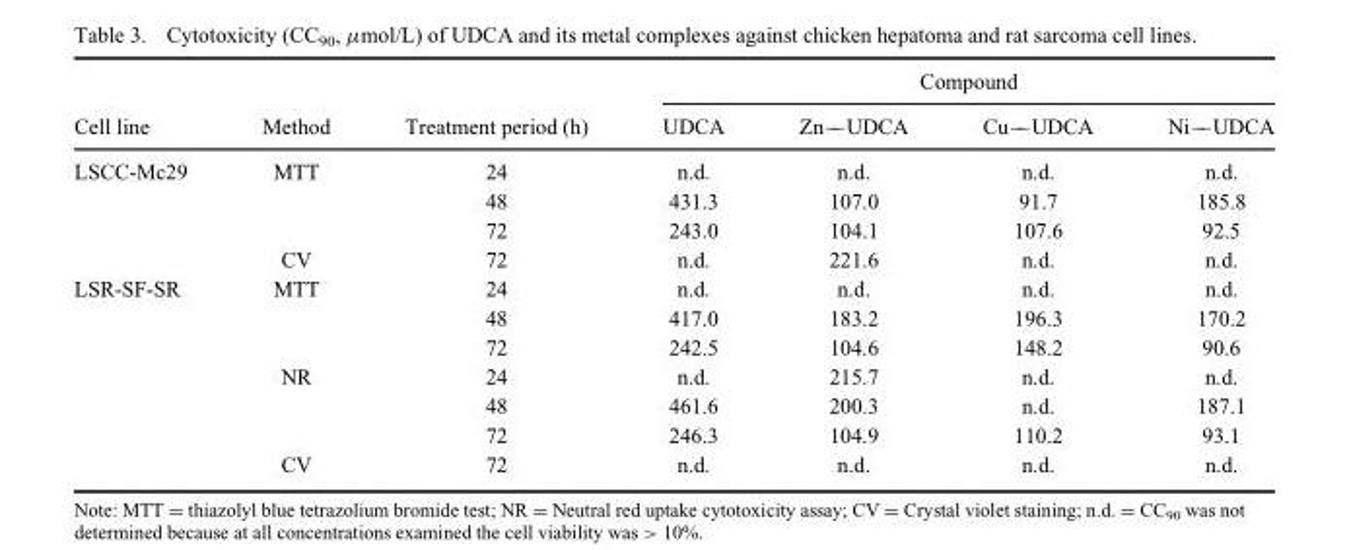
<table><thead><tr><td rowspan="2">Cell line</td><td rowspan="2">Method</td><td rowspan="2">Treatment period (h)</td><td colspan="4">Compound</td></tr><tr><td>UDCA</td><td>Zn��UDCA</td><td>Cu��UDCA</td><td>Ni��UDCA</td></tr></thead><tbody><tr><td rowspan="4">LSCC-Mc29</td><td>MTT</td><td>24</td><td>n.d.</td><td>n.d.</td><td>n.d.</td><td>n.d.</td></tr><tr><td></td><td>48</td><td>431.3</td><td>107.0</td><td>91.7</td><td>185.8</td></tr><tr><td></td><td>72</td><td>243.0</td><td>104.1</td><td>107.6</td><td>92.5</td></tr><tr><td>CV</td><td>72</td><td>n.d.</td><td>221.6</td><td>n.d.</td><td>n.d.</td></tr><tr><td rowspan="7">LSR-SF-SR</td><td>MTT</td><td>24</td><td>n.d.</td><td>n.d.</td><td>n.d.</td><td>n.d.</td></tr><tr><td></td><td>48</td><td>417.0</td><td>183.2</td><td>196.3</td><td>170.2</td></tr><tr><td></td><td>72</td><td>242.5</td><td>104.6</td><td>148.2</td><td>90.6</td></tr><tr><td>NR</td><td>24</td><td>n.d.</td><td>215.7</td><td>n.d.</td><td>n.d.</td></tr><tr><td></td><td>48</td><td>461.6</td><td>200.3</td><td>n.d.</td><td>187.1</td></tr><tr><td></td><td>72</td><td>246.3</td><td>104.9</td><td>110.2</td><td>93.1</td></tr><tr><td>CV</td><td>72</td><td>n.d.</td><td>n.d.</td><td>n.d.</td><td>n.d.</td></tr></tbody></table>